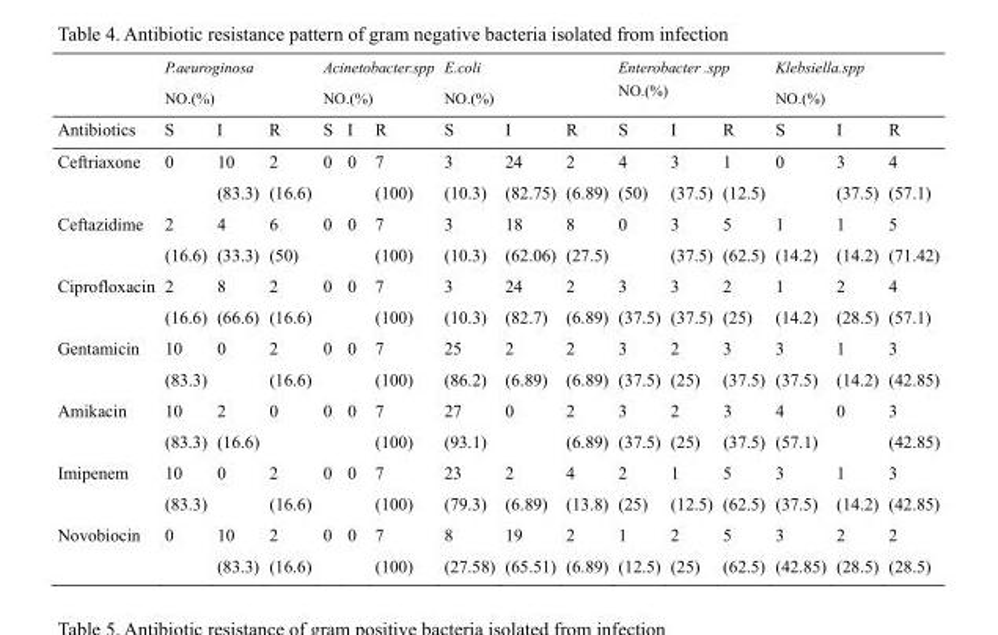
<table><thead><tr><td rowspan="2">Antibiotics</td><td colspan="3">P.aeuroginosa NO.(%)</td><td colspan="3">Acinetobacter.spp NO.(%)</td><td colspan="3">E.coli NO.(%)</td><td colspan="3">Enterobacter .spp NO.(%)</td><td colspan="3">Klebsiella.spp NO.(%)</td></tr><tr><td>S</td><td>I</td><td>R</td><td>S</td><td>I</td><td>R</td><td>S</td><td>I</td><td>R</td><td>S</td><td>I</td><td>R</td><td>S</td><td>I</td><td>R</td></tr></thead><tbody><tr><td>Ceftriaxone</td><td>0</td><td>10 (83.3)</td><td>2 (16.6)</td><td>0</td><td>0</td><td>7 (100)</td><td>3 (10.3)</td><td>24 (82.75)</td><td>2 (6.89)</td><td>4 (50)</td><td>3 (37.5)</td><td>1 (12.5)</td><td>0</td><td>3 (37.5)</td><td>4 (57.1)</td></tr><tr><td>Ceftazidime</td><td>2 (16.6)</td><td>4 (33.3)</td><td>6 (50)</td><td>0</td><td>0</td><td>7 (100)</td><td>3 (10.3)</td><td>18 (62.06)</td><td>8 (27.5)</td><td>0</td><td>3 (37.5)</td><td>5 (62.5)</td><td>1 (14.2)</td><td>1 (14.2)</td><td>5 (71.42)</td></tr><tr><td>Ciprofloxacin</td><td>2 (16.6)</td><td>8 (66.6)</td><td>2 (16.6)</td><td>0</td><td>0</td><td>7 (100)</td><td>3 (10.3)</td><td>24 (82.7)</td><td>2 (6.89)</td><td>3 (37.5)</td><td>3 (37.5)</td><td>2 (25)</td><td>1 (14.2)</td><td>2 (28.5)</td><td>4 (57.1)</td></tr><tr><td>Gentamicin</td><td>10 (83.3)</td><td>0</td><td>2 (16.6)</td><td>0</td><td>0</td><td>7 (100)</td><td>25 (86.2)</td><td>2 (6.89)</td><td>2 (6.89)</td><td>3 (37.5)</td><td>2 (25)</td><td>3 (37.5)</td><td>3 (37.5)</td><td>1 (14.2)</td><td>3 (42.85)</td></tr><tr><td>Amikacin</td><td>10 (83.3)</td><td>2 (16.6)</td><td>0</td><td>0</td><td>0</td><td>7 (100)</td><td>27 (93.1)</td><td>0</td><td>2 (6.89)</td><td>3 (37.5)</td><td>2 (25)</td><td>3 (37.5)</td><td>4 (57.1)</td><td>0</td><td>3 (42.85)</td></tr><tr><td>Imipenem</td><td>10 (83.3)</td><td>0</td><td>2 (16.6)</td><td>0</td><td>0</td><td>7 (100)</td><td>23 (79.3)</td><td>2 (6.89)</td><td>4 (13.8)</td><td>2 (25)</td><td>1 (12.5)</td><td>5 (62.5)</td><td>3 (37.5)</td><td>1 (14.2)</td><td>3 (42.85)</td></tr><tr><td>Novobiocin</td><td>0</td><td>10 (83.3)</td><td>2 (16.6)</td><td>0</td><td>0</td><td>7 (100)</td><td>8 (27.58)</td><td>19 (65.51)</td><td>2 (6.89)</td><td>1 (12.5)</td><td>2 (25)</td><td>5 (62.5)</td><td>3 (42.85)</td><td>2 (28.5)</td><td>2 (28.5)</td></tr></tbody></table>